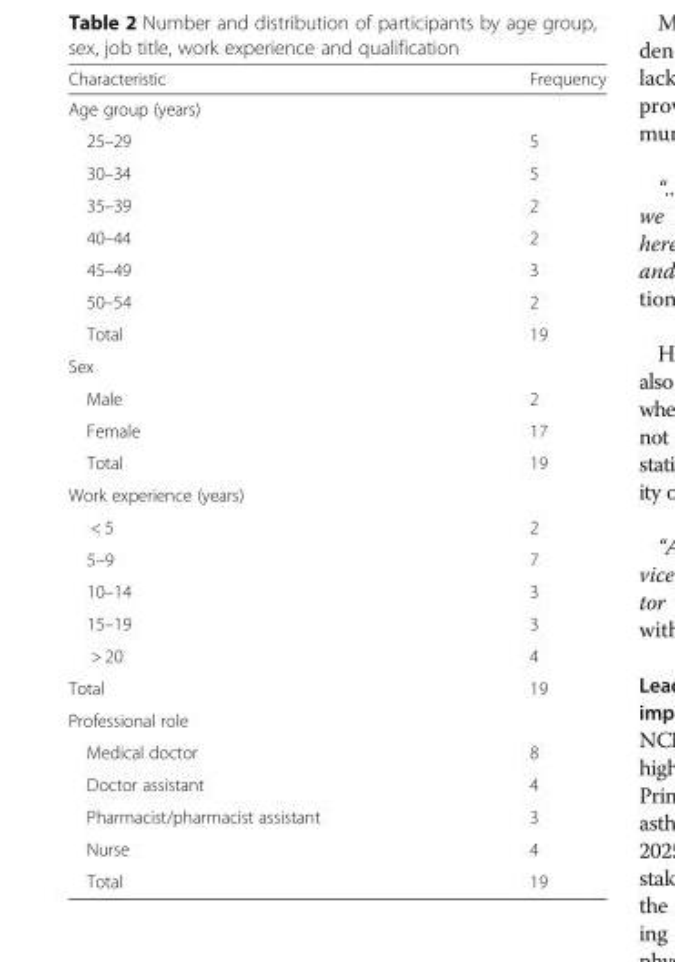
<table><thead><tr><td>Characteristic</td><td>Frequency</td></tr></thead><tbody><tr><td colspan="2">Age group (years)</td></tr><tr><td>25–29</td><td>5</td></tr><tr><td>30–34</td><td>5</td></tr><tr><td>35–39</td><td>2</td></tr><tr><td>40–44</td><td>2</td></tr><tr><td>45–49</td><td>3</td></tr><tr><td>50–54</td><td>2</td></tr><tr><td>Total</td><td>19</td></tr><tr><td colspan="2">Sex</td></tr><tr><td>Male</td><td>2</td></tr><tr><td>Female</td><td>17</td></tr><tr><td>Total</td><td>19</td></tr><tr><td colspan="2">Work experience (years)</td></tr><tr><td>&lt; 5</td><td>2</td></tr><tr><td>5–9</td><td>7</td></tr><tr><td>10–14</td><td>3</td></tr><tr><td>15–19</td><td>3</td></tr><tr><td>&gt; 20</td><td>4</td></tr><tr><td>Total</td><td>19</td></tr><tr><td colspan="2">Professional role</td></tr><tr><td>Medical doctor</td><td>8</td></tr><tr><td>Doctor assistant</td><td>4</td></tr><tr><td>Pharmacist/pharmacist assistant</td><td>3</td></tr><tr><td>Nurse</td><td>4</td></tr><tr><td>Total</td><td>19</td></tr></tbody></table>